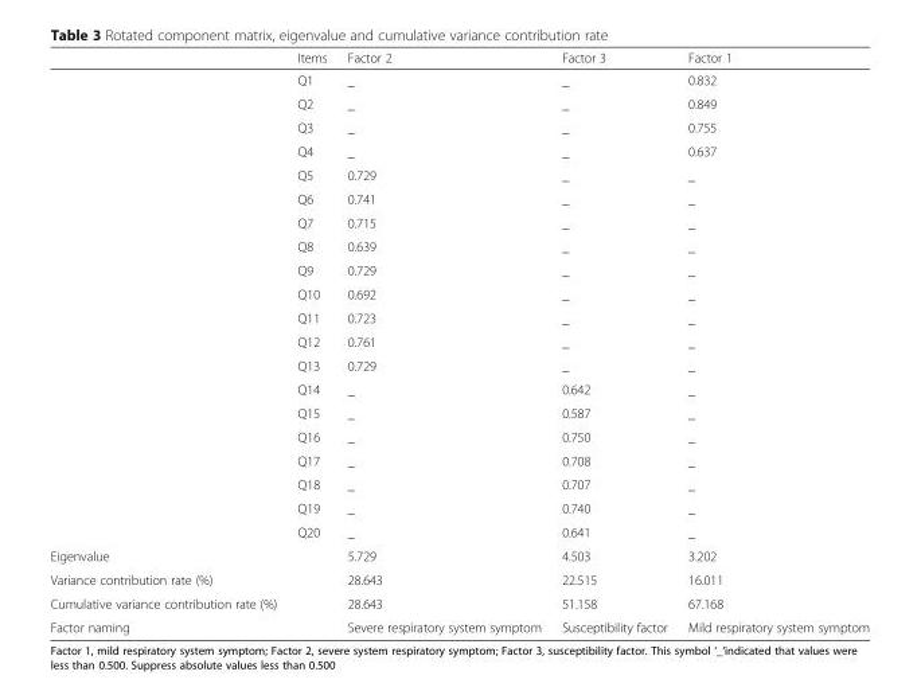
<table><thead><tr><td></td><td>Items</td><td>Factor 2</td><td>Factor 3</td><td>Factor 1</td></tr></thead><tbody><tr><td></td><td>Q1</td><td>_</td><td>_</td><td>0.832</td></tr><tr><td></td><td>Q2</td><td>_</td><td>_</td><td>0.849</td></tr><tr><td></td><td>Q3</td><td>_</td><td>_</td><td>0.755</td></tr><tr><td></td><td>Q4</td><td>_</td><td>_</td><td>0.637</td></tr><tr><td></td><td>Q5</td><td>0.729</td><td>_</td><td>_</td></tr><tr><td></td><td>Q6</td><td>0.741</td><td>_</td><td>_</td></tr><tr><td></td><td>Q7</td><td>0.715</td><td>_</td><td>_</td></tr><tr><td></td><td>Q8</td><td>0.639</td><td>_</td><td>_</td></tr><tr><td></td><td>Q9</td><td>0.729</td><td>_</td><td>_</td></tr><tr><td></td><td>Q10</td><td>0.692</td><td>_</td><td>_</td></tr><tr><td></td><td>Q11</td><td>0.723</td><td>_</td><td>_</td></tr><tr><td></td><td>Q12</td><td>0.761</td><td>_</td><td>_</td></tr><tr><td></td><td>Q13</td><td>0.729</td><td>_</td><td>_</td></tr><tr><td></td><td>Q14</td><td>_</td><td>0.642</td><td>_</td></tr><tr><td></td><td>Q15</td><td>_</td><td>0.587</td><td>_</td></tr><tr><td></td><td>Q16</td><td>_</td><td>0.750</td><td>_</td></tr><tr><td></td><td>Q17</td><td>_</td><td>0.708</td><td>_</td></tr><tr><td></td><td>Q18</td><td>_</td><td>0.707</td><td>_</td></tr><tr><td></td><td>Q19</td><td>_</td><td>0.740</td><td>_</td></tr><tr><td></td><td>Q20</td><td>_</td><td>0.641</td><td>_</td></tr><tr><td>Eigenvalue</td><td></td><td>5.729</td><td>4.503</td><td>3.202</td></tr><tr><td>Variance contribution rate (%)</td><td></td><td>28.643</td><td>22.515</td><td>16.011</td></tr><tr><td>Cumulative variance contribution rate (%)</td><td></td><td>28.643</td><td>51.158</td><td>67.168</td></tr><tr><td>Factor naming</td><td></td><td>Severe respiratory system symptom</td><td>Susceptibility factor</td><td>Mild respiratory system symptom</td></tr></tbody></table>